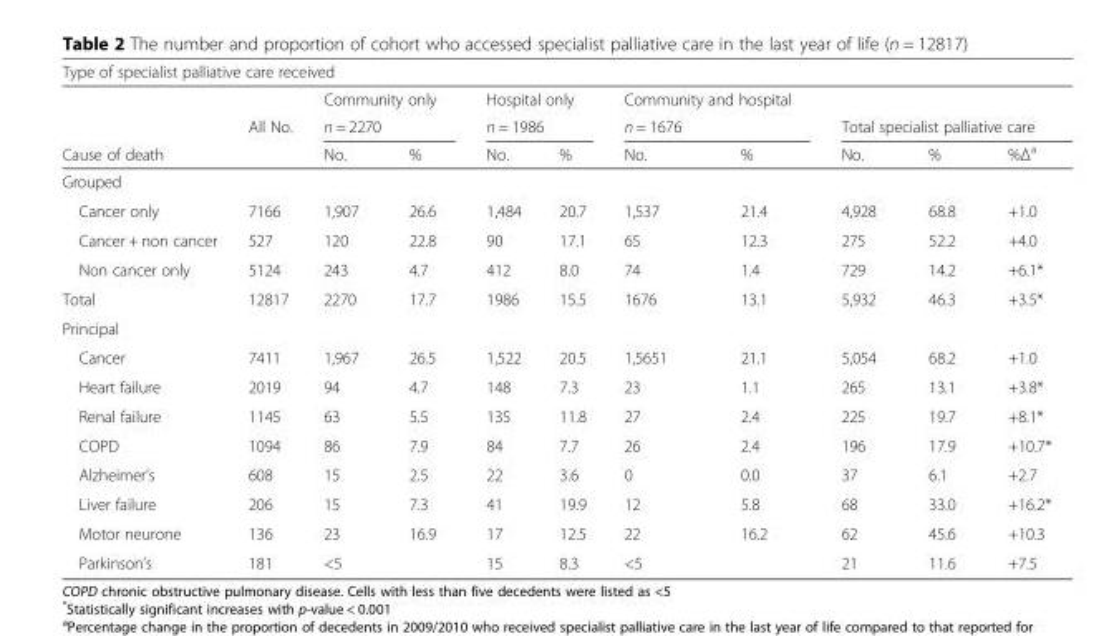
<table><thead><tr><td colspan="11">Type of specialist palliative care received</td></tr><tr><td rowspan="3">Cause of death</td><td rowspan="3">All No.</td><td rowspan="2" colspan="2">Community only n = 2270</td><td rowspan="2" colspan="2">Hospital only n = 1986</td><td rowspan="2" colspan="2">Community and hospital n = 1676</td><td></td><td></td><td></td></tr><tr><td colspan="3">Total specialist palliative care</td></tr><tr><td>No.</td><td>%</td><td>No.</td><td>%</td><td>No.</td><td>%</td><td>No.</td><td>%</td><td>%Δ<sup>a</sup></td></tr></thead><tbody><tr><td colspan="11">Grouped</td></tr><tr><td>Cancer only</td><td>7166</td><td>1,907</td><td>26.6</td><td>1,484</td><td>20.7</td><td>1,537</td><td>21.4</td><td>4,928</td><td>68.8</td><td>+1.0</td></tr><tr><td>Cancer + non cancer</td><td>527</td><td>120</td><td>22.8</td><td>90</td><td>17.1</td><td>65</td><td>12.3</td><td>275</td><td>52.2</td><td>+4.0</td></tr><tr><td>Non cancer only</td><td>5124</td><td>243</td><td>4.7</td><td>412</td><td>8.0</td><td>74</td><td>1.4</td><td>729</td><td>14.2</td><td>+6.1*</td></tr><tr><td>Total</td><td>12817</td><td>2270</td><td>17.7</td><td>1986</td><td>15.5</td><td>1676</td><td>13.1</td><td>5,932</td><td>46.3</td><td>+3.5*</td></tr><tr><td colspan="11">Principal</td></tr><tr><td>Cancer</td><td>7411</td><td>1,967</td><td>26.5</td><td>1,522</td><td>20.5</td><td>1,5651</td><td>21.1</td><td>5,054</td><td>68.2</td><td>+1.0</td></tr><tr><td>Heart failure</td><td>2019</td><td>94</td><td>4.7</td><td>148</td><td>7.3</td><td>23</td><td>1.1</td><td>265</td><td>13.1</td><td>+3.8*</td></tr><tr><td>Renal failure</td><td>1145</td><td>63</td><td>5.5</td><td>135</td><td>11.8</td><td>27</td><td>2.4</td><td>225</td><td>19.7</td><td>+8.1*</td></tr><tr><td>COPD</td><td>1094</td><td>86</td><td>7.9</td><td>84</td><td>7.7</td><td>26</td><td>2.4</td><td>196</td><td>17.9</td><td>+10.7*</td></tr><tr><td>Alzheimer’s</td><td>608</td><td>15</td><td>2.5</td><td>22</td><td>3.6</td><td>0</td><td>0.0</td><td>37</td><td>6.1</td><td>+2.7</td></tr><tr><td>Liver failure</td><td>206</td><td>15</td><td>7.3</td><td>41</td><td>19.9</td><td>12</td><td>5.8</td><td>68</td><td>33.0</td><td>+16.2*</td></tr><tr><td>Motor neurone</td><td>136</td><td>23</td><td>16.9</td><td>17</td><td>12.5</td><td>22</td><td>16.2</td><td>62</td><td>45.6</td><td>+10.3</td></tr><tr><td>Parkinson’s</td><td>181</td><td>&lt;5</td><td></td><td>15</td><td>8.3</td><td>&lt;5</td><td></td><td>21</td><td>11.6</td><td>+7.5</td></tr></tbody></table>